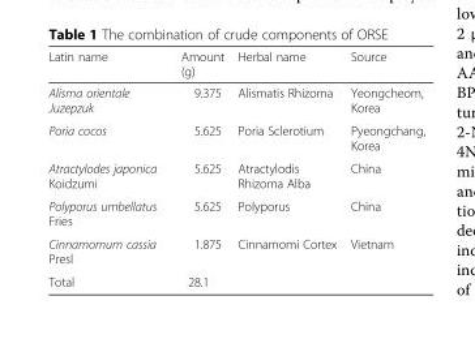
<table><thead><tr><td>Latin name</td><td>Amount (g)</td><td>Herbal name</td><td>Source</td></tr></thead><tbody><tr><td>Alisma orientale Juzepzuk</td><td>9.375</td><td>Alismatis Rhizoma</td><td>Yeongcheom, Korea</td></tr><tr><td>Poria cocos</td><td>5.625</td><td>Poria Sclerotium</td><td>Pyeongchang, Korea</td></tr><tr><td>Atractylodes japonica Koidzumi</td><td>5.625</td><td>Atractylodis Rhizoma Alba</td><td>China</td></tr><tr><td>Polyporus umbellatus Fries</td><td>5.625</td><td>Polyporus</td><td>China</td></tr><tr><td>Cinnamomum cassia Presl</td><td>1.875</td><td>Cinnamomi Cortex</td><td>Vietnam</td></tr><tr><td>Total</td><td>28.1</td><td></td><td></td></tr></tbody></table>